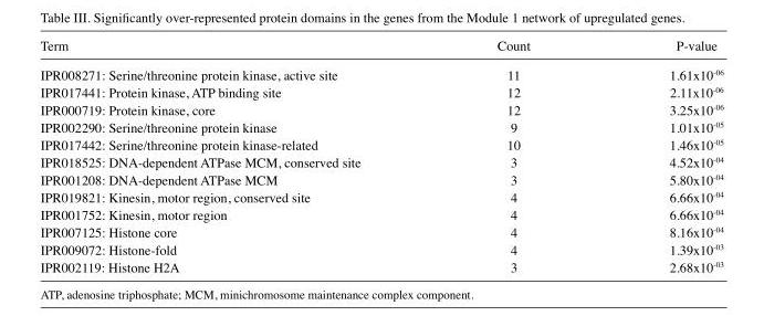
<table><thead><tr><td>Term</td><td>Count</td><td>P-value</td></tr></thead><tbody><tr><td>IPR008271: Serine/threonine protein kinase, active site</td><td>11</td><td>1.61x10-06</td></tr><tr><td>IPR017441: Protein kinase, ATP binding site</td><td>12</td><td>2.11x10-06</td></tr><tr><td>IPR000719: Protein kinase, core</td><td>12</td><td>3.25x10-06</td></tr><tr><td>IPR002290: Serine/threonine protein kinase</td><td>9</td><td>1.01x10-05</td></tr><tr><td>IPR017442: Serine/threonine protein kinase-related</td><td>10</td><td>1.46x10-05</td></tr><tr><td>IPR018525: DNA-dependent ATPase MCM, conserved site</td><td>3</td><td>4.52x10-04</td></tr><tr><td>IPR001208: DNA-dependent ATPase MCM</td><td>3</td><td>5.80x10-04</td></tr><tr><td>IPR019821: Kinesin, motor region, conserved site</td><td>4</td><td>6.66x10-04</td></tr><tr><td>IPR001752: Kinesin, motor region</td><td>4</td><td>6.66x10-04</td></tr><tr><td>IPR007125: Histone core</td><td>4</td><td>8.16x10-04</td></tr><tr><td>IPR009072: Histone‑fold</td><td>4</td><td>1.39x10-03</td></tr><tr><td>IPR002119: Histone H2A</td><td>3</td><td>2.68x10-03</td></tr></tbody></table>